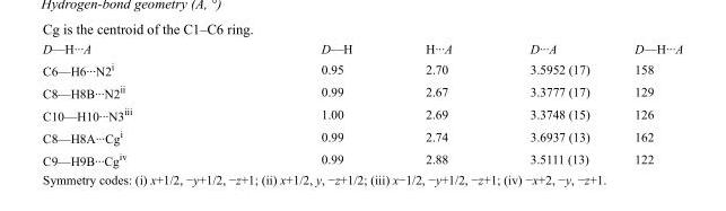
<table><tbody><tr><td>D—H···A</td><td>D—H</td><td>H···A</td><td>D···A</td><td>D—H···A</td></tr><tr><td>C6—H6···N2<sup>i</sup></td><td>0.95</td><td>2.70</td><td>3.5952 (17)</td><td>158</td></tr><tr><td>C8—H8B···N2<sup>ii</sup></td><td>0.99</td><td>2.67</td><td>3.3777 (17)</td><td>129</td></tr><tr><td>C10—H10···N3<sup>iii</sup></td><td>1.00</td><td>2.69</td><td>3.3748 (15)</td><td>126</td></tr><tr><td>C8—H8A···Cg<sup>i</sup></td><td>0.99</td><td>2.74</td><td>3.6937 (13)</td><td>162</td></tr><tr><td>C9—H9B···Cg<sup>iv</sup></td><td>0.99</td><td>2.88</td><td>3.5111 (13)</td><td>122</td></tr></tbody></table>